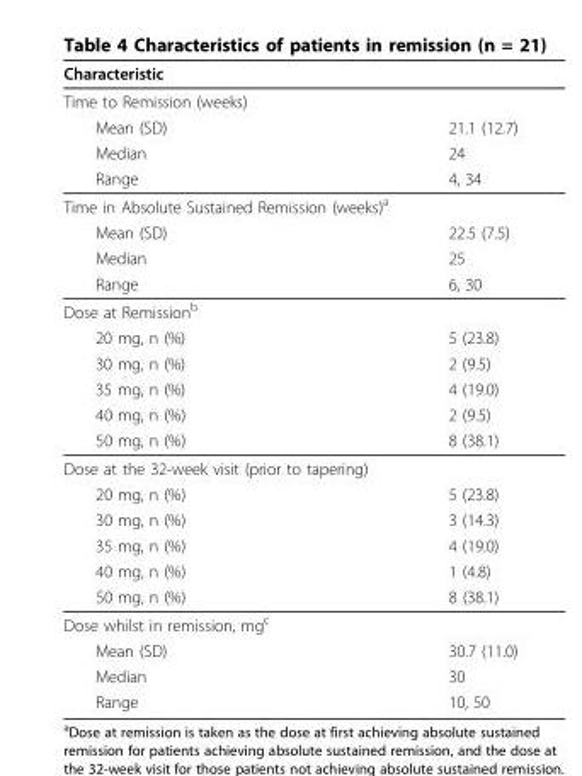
<table><thead><tr><td colspan="2">Characteristic</td></tr><tr><td>Time to Remission (weeks)</td><td></td></tr></thead><tbody><tr><td>Mean (SD)</td><td>21.1 (12.7)</td></tr><tr><td>Median</td><td>24</td></tr><tr><td>Range</td><td>4, 34</td></tr><tr><td colspan="2">Time in Absolute Sustained Remission (weeks)<sup>a</sup></td></tr><tr><td>Mean (SD)</td><td>22.5 (7.5)</td></tr><tr><td>Median</td><td>25</td></tr><tr><td>Range</td><td>6, 30</td></tr><tr><td colspan="2">Dose at Remission<sup>b</sup></td></tr><tr><td>20 mg, n (%)</td><td>5 (23.8)</td></tr><tr><td>30 mg, n (%)</td><td>2 (9.5)</td></tr><tr><td>35 mg, n (%)</td><td>4 (19.0)</td></tr><tr><td>40 mg, n (%)</td><td>2 (9.5)</td></tr><tr><td>50 mg, n (%)</td><td>8 (38.1)</td></tr><tr><td colspan="2">Dose at the 32-week visit (prior to tapering)</td></tr><tr><td>20 mg, n (%)</td><td>5 (23.8)</td></tr><tr><td>30 mg, n (%)</td><td>3 (14.3)</td></tr><tr><td>35 mg, n (%)</td><td>4 (19.0)</td></tr><tr><td>40 mg, n (%)</td><td>1 (4.8)</td></tr><tr><td>50 mg, n (%)</td><td>8 (38.1)</td></tr><tr><td colspan="2">Dose whilst in remission, mg<sup>c</sup></td></tr><tr><td>Mean (SD)</td><td>30.7 (11.0)</td></tr><tr><td>Median</td><td>30</td></tr><tr><td>Range</td><td>10, 50</td></tr></tbody></table>